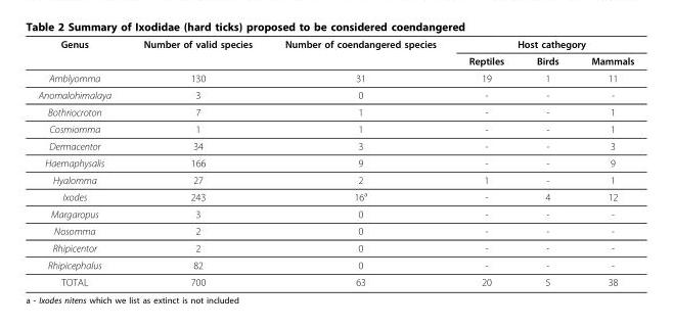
<table><thead><tr><td rowspan="2">Genus</td><td rowspan="2">Number of valid species</td><td rowspan="2">Number of coendangered species</td><td colspan="3">Host cathegory</td></tr><tr><td>Reptiles</td><td>Birds</td><td>Mammals</td></tr></thead><tbody><tr><td>Amblyomma</td><td>130</td><td>31</td><td>19</td><td>1</td><td>11</td></tr><tr><td>Anomalohimalaya</td><td>3</td><td>0</td><td>-</td><td>-</td><td>-</td></tr><tr><td>Bothriocroton</td><td>7</td><td>1</td><td>-</td><td>-</td><td>1</td></tr><tr><td>Cosmiomma</td><td>1</td><td>1</td><td>-</td><td>-</td><td>1</td></tr><tr><td>Dermacentor</td><td>34</td><td>3</td><td>-</td><td>-</td><td>3</td></tr><tr><td>Haemaphysalis</td><td>166</td><td>9</td><td>-</td><td>-</td><td>9</td></tr><tr><td>Hyalomma</td><td>27</td><td>2</td><td>1</td><td>-</td><td>1</td></tr><tr><td>Ixodes</td><td>243</td><td>16<sup>a</sup></td><td>-</td><td>4</td><td>12</td></tr><tr><td>Margaropus</td><td>3</td><td>0</td><td>-</td><td>-</td><td>-</td></tr><tr><td>Nosomma</td><td>2</td><td>0</td><td>-</td><td>-</td><td>-</td></tr><tr><td>Rhipicentor</td><td>2</td><td>0</td><td>-</td><td>-</td><td>-</td></tr><tr><td>Rhipicephalus</td><td>82</td><td>0</td><td>-</td><td>-</td><td>-</td></tr><tr><td>TOTAL</td><td>700</td><td>63</td><td>20</td><td>5</td><td>38</td></tr></tbody></table>